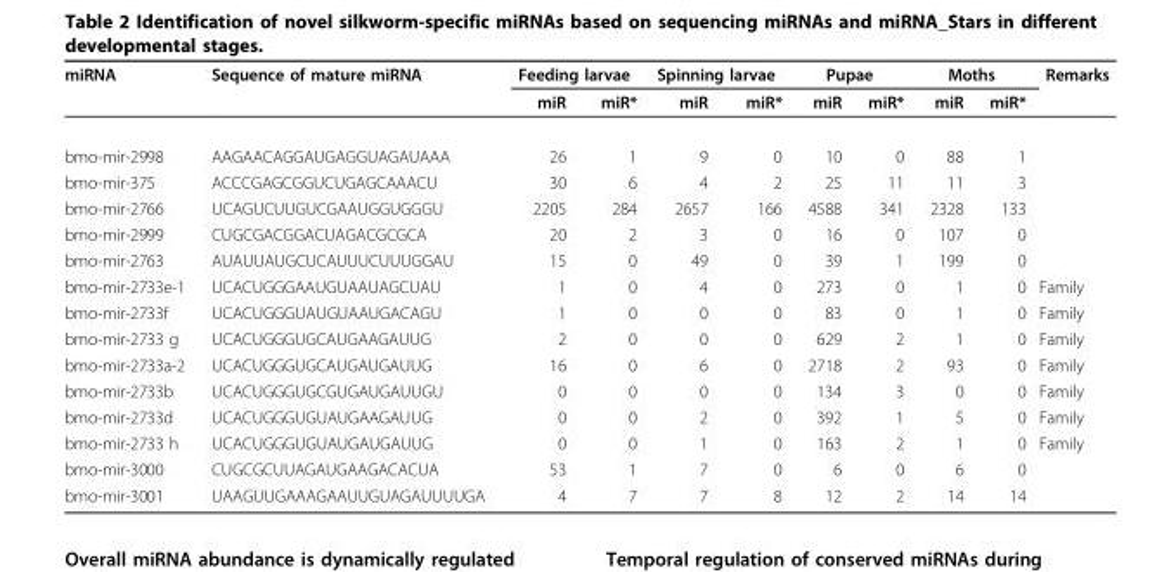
<table><thead><tr><td rowspan="2">miRNA</td><td rowspan="2">Sequence of mature miRNA</td><td colspan="2">Feeding larvae</td><td colspan="2">Spinning larvae</td><td colspan="2">Pupae</td><td colspan="2">Moths</td><td rowspan="2">Remarks</td></tr><tr><td>miR</td><td>miR*</td><td>miR</td><td>miR*</td><td>miR</td><td>miR*</td><td>miR</td><td>miR*</td></tr></thead><tbody><tr><td>bmo-mir-2998</td><td>AAGAACAGGAUGAGGUAGAUAAA</td><td>26</td><td>1</td><td>9</td><td>0</td><td>10</td><td>0</td><td>88</td><td>1</td><td></td></tr><tr><td>bmo-mir-375</td><td>ACCCGAGCGGUCUGAGCAAACU</td><td>30</td><td>6</td><td>4</td><td>2</td><td>25</td><td>11</td><td>11</td><td>3</td><td></td></tr><tr><td>bmo-mir-2766</td><td>UCAGUCUUGUCGAAUGGUGGGU</td><td>2205</td><td>284</td><td>2657</td><td>166</td><td>4588</td><td>341</td><td>2328</td><td>133</td><td></td></tr><tr><td>bmo-mir-2999</td><td>CUGCGACGGACUAGACGCGCA</td><td>20</td><td>2</td><td>3</td><td>0</td><td>16</td><td>0</td><td>107</td><td>0</td><td></td></tr><tr><td>bmo-mir-2763</td><td>AUAUUAUGCUCAUUUCUUUGGAU</td><td>15</td><td>0</td><td>49</td><td>0</td><td>39</td><td>1</td><td>199</td><td>0</td><td></td></tr><tr><td>bmo-mir-2733e-1</td><td>UCACUGGGAAUGUAAUAGCUAU</td><td>1</td><td>0</td><td>4</td><td>0</td><td>273</td><td>0</td><td>1</td><td>0</td><td>Family</td></tr><tr><td>bmo-mir-2733f</td><td>UCACUGGGUAUGUAAUGACAGU</td><td>1</td><td>0</td><td>0</td><td>0</td><td>83</td><td>0</td><td>1</td><td>0</td><td>Family</td></tr><tr><td>bmo-mir-2733 g</td><td>UCACUGGGUGCAUGAAGAUUG</td><td>2</td><td>0</td><td>0</td><td>0</td><td>629</td><td>2</td><td>1</td><td>0</td><td>Family</td></tr><tr><td>bmo-mir-2733a-2</td><td>UCACUGGGUGCAUGAUGAUUG</td><td>16</td><td>0</td><td>6</td><td>0</td><td>2718</td><td>2</td><td>93</td><td>0</td><td>Family</td></tr><tr><td>bmo-mir-2733b</td><td>UCACUGGGUGCGUGAUGAUUGU</td><td>0</td><td>0</td><td>0</td><td>0</td><td>134</td><td>3</td><td>0</td><td>0</td><td>Family</td></tr><tr><td>bmo-mir-2733d</td><td>UCACUGGGUGUAUGAAGAUUG</td><td>0</td><td>0</td><td>2</td><td>0</td><td>392</td><td>1</td><td>5</td><td>0</td><td>Family</td></tr><tr><td>bmo-mir-2733 h</td><td>UCACUGGGUGUAUGAUGAUUG</td><td>0</td><td>0</td><td>1</td><td>0</td><td>163</td><td>2</td><td>1</td><td>0</td><td>Family</td></tr><tr><td>bmo-mir-3000</td><td>CUGCGCUUAGAUGAAGACACUA</td><td>53</td><td>1</td><td>7</td><td>0</td><td>6</td><td>0</td><td>6</td><td>0</td><td></td></tr><tr><td>bmo-mir-3001</td><td>UAAGUUGAAAGAAUUGUAGAUUUUGA</td><td>4</td><td>7</td><td>7</td><td>8</td><td>12</td><td>2</td><td>14</td><td>14</td><td></td></tr></tbody></table>